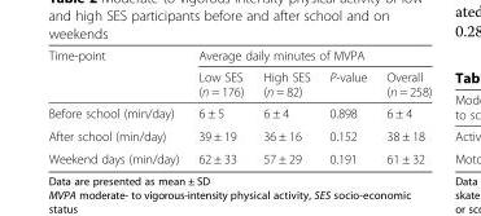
<table><thead><tr><td rowspan="2">Time-point</td><td colspan="4">Average daily minutes of MVPA</td></tr><tr><td>Low SES (n = 176)</td><td>High SES (n = 82)</td><td>P-value</td><td>Overall (n = 258)</td></tr></thead><tbody><tr><td>Before school (min/day)</td><td>6 ± 5</td><td>6 ± 4</td><td>0.898</td><td>6 ± 4</td></tr><tr><td>After school (min/day)</td><td>39 ± 19</td><td>36 ± 16</td><td>0.152</td><td>38 ± 18</td></tr><tr><td>Weekend days (min/day)</td><td>62 ± 33</td><td>57 ± 29</td><td>0.191</td><td>61 ± 32</td></tr></tbody></table>